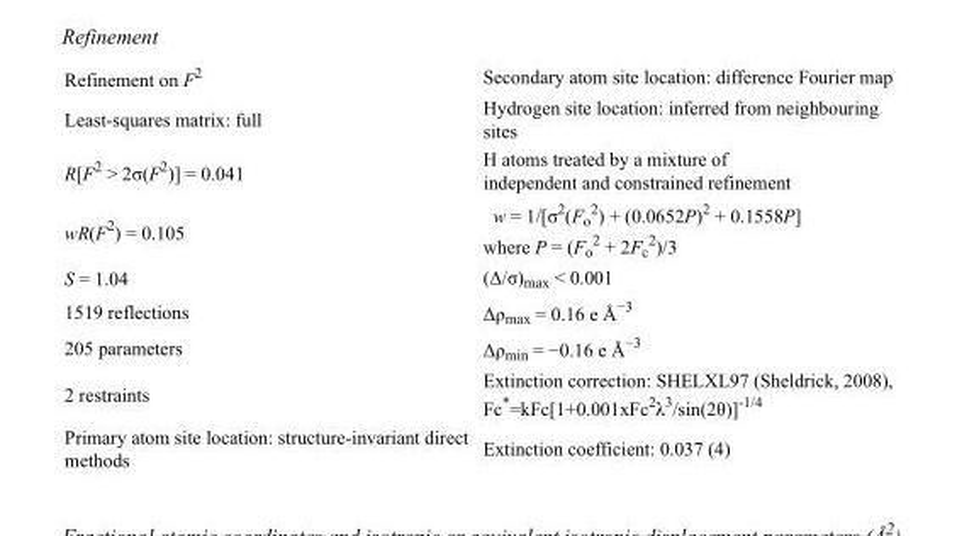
<table><tbody><tr><td>Refinement on F<sup>2</sup></td><td>Secondary atom site location: difference Fourier map</td></tr><tr><td>Least-squares matrix: full</td><td>Hydrogen site location: inferred from neighbouring sites</td></tr><tr><td>R[F<sup>2</sup> &gt; 2σ(F<sup>2</sup>)] = 0.041</td><td>H atoms treated by a mixture of independent and constrained refinement</td></tr><tr><td>wR(F<sup>2</sup>) = 0.105</td><td>w = 1/[σ<sup>2</sup>(F<sub>o</sub> <sup>2</sup>) + (0.0652P)<sup>2</sup> + 0.1558P] where P = (F<sub>o</sub> <sup>2</sup> + 2F<sub>c</sub> <sup>2</sup>)/3</td></tr><tr><td>S = 1.04</td><td>(Δ/σ)<sub>max</sub> &lt; 0.001</td></tr><tr><td>1519 reflections</td><td>Δρ<sub>max</sub> = 0.16 e Å<sup>−3</sup></td></tr><tr><td>205 parameters</td><td>Δρ<sub>min</sub> = −0.16 e Å<sup>−3</sup></td></tr><tr><td>2 restraints</td><td>Extinction correction: SHELXL97 (Sheldrick, 2008), Fc*=kFc[1+0.001xFc<sup>2</sup>λ<sup>3</sup>/sin(2θ)]<sup>-1/4</sup></td></tr><tr><td>Primary atom site location: structure-invariant direct methods</td><td>Extinction coefficient: 0.037 (4)</td></tr></tbody></table>